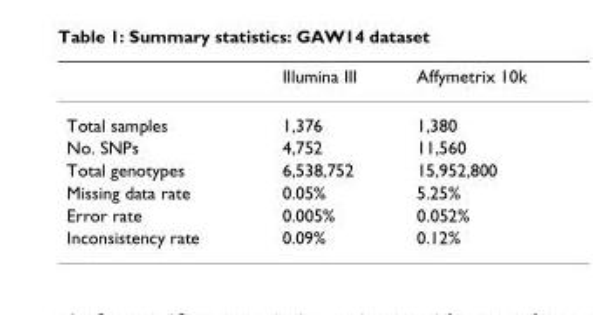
<table><thead><tr><td></td><td>Illumina III</td><td>Affymetrix 10k</td></tr></thead><tbody><tr><td>Total samples</td><td>1,376</td><td>1,380</td></tr><tr><td>No. SNPs</td><td>4,752</td><td>11,560</td></tr><tr><td>Total genotypes</td><td>6,538,752</td><td>15,952,800</td></tr><tr><td>Missing data rate</td><td>0.05%</td><td>5.25%</td></tr><tr><td>Error rate</td><td>0.005%</td><td>0.052%</td></tr><tr><td>Inconsistency rate</td><td>0.09%</td><td>0.12%</td></tr></tbody></table>